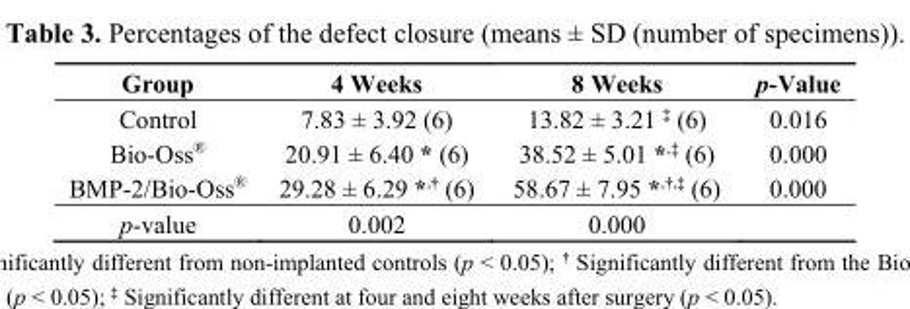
<table><thead><tr><td>Group</td><td>4 Weeks</td><td>8 Weeks</td><td>p-Value</td></tr></thead><tbody><tr><td>Control</td><td>7.83 ± 3.92 (6)</td><td>13.82 ± 3.21 <sup>‡</sup> (6)</td><td>0.016</td></tr><tr><td>Bio-Oss<sup>®</sup></td><td>20.91 ± 6.40 * (6)</td><td>38.52 ± 5.01 *<sup>,‡</sup> (6)</td><td>0.000</td></tr><tr><td>BMP-2/Bio-Oss<sup>®</sup></td><td>29.28 ± 6.29 *<sup>,†</sup> (6)</td><td>58.67 ± 7.95 *<sup>,†,‡</sup> (6)</td><td>0.000</td></tr><tr><td>p-value</td><td>0.002</td><td>0.000</td><td></td></tr></tbody></table>